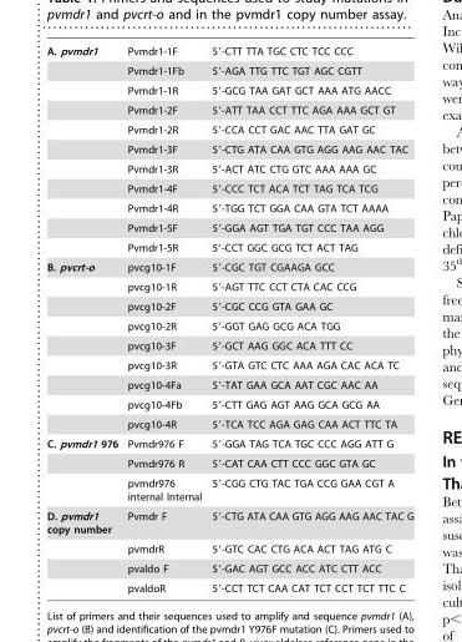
<table><tbody><tr><td rowspan="11">A. pvmdr1</td><td>Pvmdr1-1F</td><td>5′-CTT TTA TGC CTC TCC CCC</td></tr><tr><td>Pvmdr1-1Fb</td><td>5′-AGA TTG TTC TGT AGC CGTT</td></tr><tr><td>Pvmdr1-1R</td><td>5′-GCG TAA GAT GCT AAA ATG AACC</td></tr><tr><td>Pvmdr1-2F</td><td>5′-ATT TAA CCT TTC AGA AAA GCT GT</td></tr><tr><td>Pvmdr1-2R</td><td>5′-CCA CCT GAC AAC TTA GAT GC</td></tr><tr><td>Pvmdr1-3F</td><td>5′-CTG ATA CAA GTG AGG AAG AAC TAC</td></tr><tr><td>Pvmdr1-3R</td><td>5′-ACT ATC CTG GTC AAA AAA GC</td></tr><tr><td>Pvmdr1-4F</td><td>5′-CCC TCT ACA TCT TAG TCA TCG</td></tr><tr><td>Pvmdr1-4R</td><td>5′-TGG TCT GGA CAA GTA TCT AAAA</td></tr><tr><td>Pvmdr1-5F</td><td>5′-GGA AGT TGA TGT CCC TAA AGG</td></tr><tr><td>Pvmdr1-5R</td><td>5′-CCT GGC GCG TCT ACT TAG</td></tr><tr><td rowspan="9">B. pvcrt-o</td><td>pvcg10-1F</td><td>5′-CGC TGT CGAAGA GCC</td></tr><tr><td>pvcg10-1R</td><td>5′-AGT TTC CCT CTA CAC CCG</td></tr><tr><td>pvcg10-2F</td><td>5′-CGC CCG GTA GAA GC</td></tr><tr><td>pvcg10-2R</td><td>5′-GGT GAG GCG ACA TGG</td></tr><tr><td>pvcg10-3F</td><td>5′-GCT AAG GGC ACA TTT CC</td></tr><tr><td>pvcg10-3R</td><td>5′-GTA GTC CTC AAA AGA CAC ACA TC</td></tr><tr><td>pvcg10-4Fa</td><td>5′-TAT GAA GCA AAT CGC AAC AA</td></tr><tr><td>pvcg10-4Fb</td><td>5′-CTT GAG AGT AAG GCA GCG AA</td></tr><tr><td>pvcg10-4R</td><td>5′-TCA TCC AGA GAG CAA ACT TTC TA</td></tr><tr><td rowspan="3">C. pvmdr1 976</td><td>Pvmdr976 F</td><td>5′-GGA TAG TCA TGC CCC AGG ATT G</td></tr><tr><td>Pvmdr976 R</td><td>5′-CAT CAA CTT CCC GGC GTA GC</td></tr><tr><td>pvmdr976 internal Internal</td><td>5′-CGG CTG TAC TGA CCG GAA CGT A</td></tr><tr><td rowspan="4">D. pvmdr1 copy number</td><td>Pvmdr F</td><td>5′-CTG ATA CAA GTG AGG AAG AAC TAC G</td></tr><tr><td>pvmdrR</td><td>5′-GTC CAC CTG ACA ACT TAG ATG C</td></tr><tr><td>pvaldo F</td><td>5′-GAC AGT GCC ACC ATC CTT ACC</td></tr><tr><td>pvaldoR</td><td>5′-CCT TCT CAA CAT TCT CCT TCT TTC C</td></tr></tbody></table>